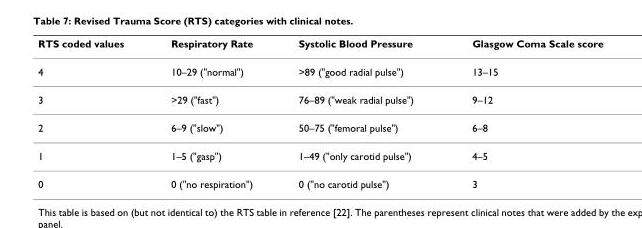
<table><thead><tr><td>RTS coded values</td><td>Respiratory Rate</td><td>Systolic Blood Pressure</td><td>Glasgow Coma Scale score</td></tr></thead><tbody><tr><td>4</td><td>10–29 (&quot;normal&quot;)</td><td>&gt;89 (&quot;good radial pulse&quot;)</td><td>13–15</td></tr><tr><td>3</td><td>&gt;29 (&quot;fast&quot;)</td><td>76–89 (&quot;weak radial pulse&quot;)</td><td>9–12</td></tr><tr><td>2</td><td>6–9 (&quot;slow&quot;)</td><td>50–75 (&quot;femoral pulse&quot;)</td><td>6–8</td></tr><tr><td>1</td><td>1–5 (&quot;gasp&quot;)</td><td>1–49 (&quot;only carotid pulse&quot;)</td><td>4–5</td></tr><tr><td>0</td><td>0 (&quot;no respiration&quot;)</td><td>0 (&quot;no carotid pulse&quot;)</td><td>3</td></tr></tbody></table>